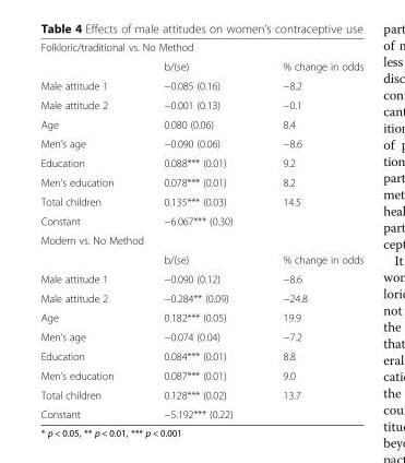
<table><tbody><tr><td colspan="3">Folkloric/traditional vs. No Method</td></tr><tr><td></td><td>b/(se)</td><td>% change in odds</td></tr><tr><td>Male attitude 1</td><td>−0.085 (0.16)</td><td>−8.2</td></tr><tr><td>Male attitude 2</td><td>−0.001 (0.13)</td><td>−0.1</td></tr><tr><td>Age</td><td>0.080 (0.06)</td><td>8.4</td></tr><tr><td>Men’s age</td><td>−0.090 (0.06)</td><td>−8.6</td></tr><tr><td>Education</td><td>0.088*** (0.01)</td><td>9.2</td></tr><tr><td>Men’s education</td><td>0.078*** (0.01)</td><td>8.2</td></tr><tr><td>Total children</td><td>0.135*** (0.03)</td><td>14.5</td></tr><tr><td>Constant</td><td>−6.067*** (0.30)</td><td></td></tr><tr><td colspan="3">Modern vs. No Method</td></tr><tr><td></td><td>b/(se)</td><td>% change in odds</td></tr><tr><td>Male attitude 1</td><td>−0.090 (0.12)</td><td>−8.6</td></tr><tr><td>Male attitude 2</td><td>−0.284** (0.09)</td><td>−24.8</td></tr><tr><td>Age</td><td>0.182*** (0.05)</td><td>19.9</td></tr><tr><td>Men’s age</td><td>−0.074 (0.04)</td><td>−7.2</td></tr><tr><td>Education</td><td>0.084*** (0.01)</td><td>8.8</td></tr><tr><td>Men’s education</td><td>0.087*** (0.01)</td><td>9.0</td></tr><tr><td>Total children</td><td>0.128*** (0.02)</td><td>13.7</td></tr><tr><td>Constant</td><td>−5.192*** (0.22)</td><td></td></tr></tbody></table>